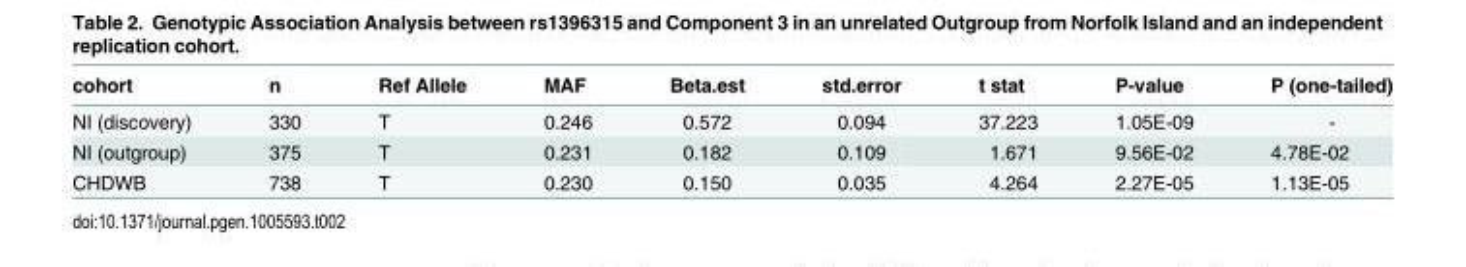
<table><thead><tr><td>cohort</td><td>n</td><td>Ref Allele</td><td>MAF</td><td>Beta.est</td><td>std.error</td><td>t stat</td><td>P-value</td><td>P (one-tailed)</td></tr></thead><tbody><tr><td>NI (discovery)</td><td>330</td><td>T</td><td>0.246</td><td>0.572</td><td>0.094</td><td>37.223</td><td>1.05E-09</td><td>-</td></tr><tr><td>NI (outgroup)</td><td>375</td><td>T</td><td>0.231</td><td>0.182</td><td>0.109</td><td>1.671</td><td>9.56E-02</td><td>4.78E-02</td></tr><tr><td>CHDWB</td><td>738</td><td>T</td><td>0.230</td><td>0.150</td><td>0.035</td><td>4.264</td><td>2.27E-05</td><td>1.13E-05</td></tr></tbody></table>